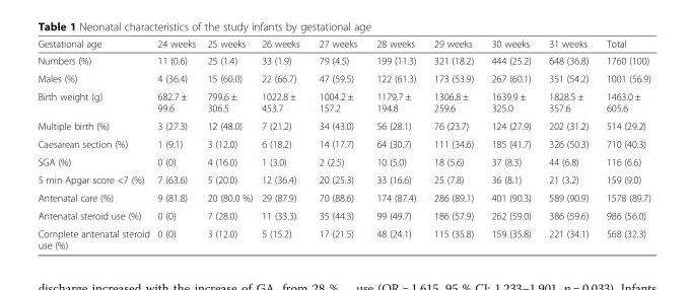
<table><thead><tr><td>Gestational age</td><td>24 weeks</td><td>25 weeks</td><td>26 weeks</td><td>27 weeks</td><td>28 weeks</td><td>29 weeks</td><td>30 weeks</td><td>31 weeks</td><td>Total</td></tr></thead><tbody><tr><td>Numbers (%)</td><td>11 (0.6)</td><td>25 (1.4)</td><td>33 (1.9)</td><td>79 (4.5)</td><td>199 (11.3)</td><td>321 (18.2)</td><td>444 (25.2)</td><td>648 (36.8)</td><td>1760 (100)</td></tr><tr><td>Males (%)</td><td>4 (36.4)</td><td>15 (60.0)</td><td>22 (66.7)</td><td>47 (59.5)</td><td>122 (61.3)</td><td>173 (53.9)</td><td>267 (60.1)</td><td>351 (54.2)</td><td>1001 (56.9)</td></tr><tr><td>Birth weight (g)</td><td>682.7 ± 99.6</td><td>799.6 ± 306.5</td><td>1022.8 ± 453.7</td><td>1004.2 ± 157.2</td><td>1179.7 ± 194.8</td><td>1306.8 ± 259.6</td><td>1639.9 ± 325.0</td><td>1828.5 ± 357.6</td><td>1463.0 ± 605.6</td></tr><tr><td>Multiple birth (%)</td><td>3 (27.3)</td><td>12 (48.0)</td><td>7 (21.2)</td><td>34 (43.0)</td><td>56 (28.1)</td><td>76 (23.7)</td><td>124 (27.9)</td><td>202 (31.2)</td><td>514 (29.2)</td></tr><tr><td>Caesarean section (%)</td><td>1 (9.1)</td><td>3 (12.0)</td><td>6 (18.2)</td><td>14 (17.7)</td><td>64 (30.7)</td><td>111 (34.6)</td><td>185 (41.7)</td><td>326 (50.3)</td><td>710 (40.3)</td></tr><tr><td>SGA (%)</td><td>0 (0)</td><td>4 (16.0)</td><td>1 (3.0)</td><td>2 (2.5)</td><td>10 (5.0)</td><td>18 (5.6)</td><td>37 (8.3)</td><td>44 (6.8)</td><td>116 (6.6)</td></tr><tr><td>5 min Apgar score &lt;7 (%)</td><td>7 (63.6)</td><td>5 (20.0)</td><td>12 (36.4)</td><td>20 (25.3)</td><td>33 (16.6)</td><td>25 (7.8)</td><td>36 (8.1)</td><td>21 (3.2)</td><td>159 (9.0)</td></tr><tr><td>Antenatal care (%)</td><td>9 (81.8)</td><td>20 (80.0 %)</td><td>29 (87.9)</td><td>70 (88.6)</td><td>174 (87.4)</td><td>286 (89.1)</td><td>401 (90.3)</td><td>589 (90.9)</td><td>1578 (89.7)</td></tr><tr><td>Antenatal steroid use (%)</td><td>0 (0)</td><td>7 (28.0)</td><td>11 (33.3)</td><td>35 (44.3)</td><td>99 (49.7)</td><td>186 (57.9)</td><td>262 (59.0)</td><td>386 (59.6)</td><td>986 (56.0)</td></tr><tr><td>Complete antenatal steroid use (%)</td><td>0 (0)</td><td>3 (12.0)</td><td>5 (15.2)</td><td>17 (21.5)</td><td>48 (24.1)</td><td>115 (35.8)</td><td>159 (35.8)</td><td>221 (34.1)</td><td>568 (32.3)</td></tr></tbody></table>